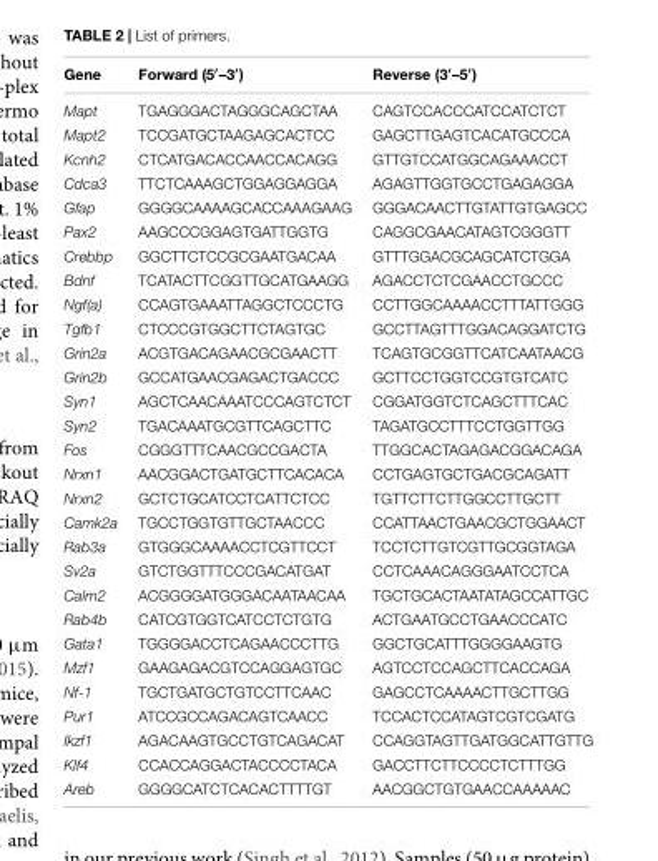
<table><thead><tr><td>Gene</td><td>Forward (5′–3′)</td><td>Reverse (3′–5′)</td></tr></thead><tbody><tr><td>Mapt</td><td>TGAGGGACTAGGGCAGCTAA</td><td>CAGTCCACCCATCCATCTCT</td></tr><tr><td>Mapt2</td><td>TCCGATGCTAAGAGCACTCC</td><td>GAGCTTGAGTCACATGCCCA</td></tr><tr><td>Kcnh2</td><td>CTCATGACACCAACCACAGG</td><td>GTTGTCCATGGCAGAAACCT</td></tr><tr><td>Cdca3</td><td>TTCTCAAAGCTGGAGGAGGA</td><td>AGAGTTGGTGCCTGAGAGGA</td></tr><tr><td>Gfap</td><td>GGGGCAAAAGCACCAAAGAAG</td><td>GGGACAACTTGTATTGTGAGCC</td></tr><tr><td>Pax2</td><td>AAGCCCGGAGTGATTGGTG</td><td>CAGGCGAACATAGTCGGGTT</td></tr><tr><td>Crebbp</td><td>GGCTTCTCCGCGAATGACAA</td><td>GTTTGGACGCAGCATCTGGA</td></tr><tr><td>Bdnf</td><td>TCATACTTCGGTTGCATGAAGG</td><td>AGACCTCTCGAACCTGCCC</td></tr><tr><td>Ngf(a)</td><td>CCAGTGAAATTAGGCTCCCTG</td><td>CCTTGGCAAAACCTTTATTGGG</td></tr><tr><td>Tgfb1</td><td>CTCCCGTGGCTTCTAGTGC</td><td>GCCTTAGTTTGGACAGGATCTG</td></tr><tr><td>Grin2a</td><td>ACGTGACAGAACGCGAACTT</td><td>TCAGTGCGGTTCATCAATAACG</td></tr><tr><td>Grin2b</td><td>GCCATGAACGAGACTGACCC</td><td>GCTTCCTGGTCCGTGTCATC</td></tr><tr><td>Syn1</td><td>AGCTCAACAAATCCCAGTCTCT</td><td>CGGATGGTCTCAGCTTTCAC</td></tr><tr><td>Syn2</td><td>TGACAAATGCGTTCAGCTTC</td><td>TAGATGCCTTTCCTGGTTGG</td></tr><tr><td>Fos</td><td>CGGGTTTCAACGCCGACTA</td><td>TTGGCACTAGAGACGGACAGA</td></tr><tr><td>Nrxn1</td><td>AACGGACTGATGCTTCACACA</td><td>CCTGAGTGCTGACGCAGATT</td></tr><tr><td>Nrxn2</td><td>GCTCTGCATCCTCATTCTCC</td><td>TGTTCTTCTTGGCCTTGCTT</td></tr><tr><td>Camk2a</td><td>TGCCTGGTGTTGCTAACCC</td><td>CCATTAACTGAACGCTGGAACT</td></tr><tr><td>Rab3a</td><td>GTGGGCAAAACCTCGTTCCT</td><td>TCCTCTTGTCGTTGCGGTAGA</td></tr><tr><td>Sv2a</td><td>GTCTGGTTTCCCGACATGAT</td><td>CCTCAAACAGGGAATCCTCA</td></tr><tr><td>Calm2</td><td>ACGGGGATGGGACAATAACAA</td><td>TGCTGCACTAATATAGCCATTGC</td></tr><tr><td>Rab4b</td><td>CATCGTGGTCATCCTCTGTG</td><td>ACTGAATGCCTGAACCCATC</td></tr><tr><td>Gata1</td><td>TGGGGACCTCAGAACCCTTG</td><td>GGCTGCATTTGGGGAAGTG</td></tr><tr><td>Mzf1</td><td>GAAGAGACGTCCAGGAGTGC</td><td>AGTCCTCCAGCTTCACCAGA</td></tr><tr><td>Nf-1</td><td>TGCTGATGCTGTCCTTCAAC</td><td>GAGCCTCAAAACTTGCTTGG</td></tr><tr><td>Pur1</td><td>ATCCGCCAGACAGTCAACC</td><td>TCCACTCCATAGTCGTCGATG</td></tr><tr><td>Ikzf1</td><td>AGACAAGTGCCTGTCAGACAT</td><td>CCAGGTAGTTGATGGCATTGTTG</td></tr><tr><td>Klf4</td><td>CCACCAGGACTACCCCTACA</td><td>GACCTTCTTCCCCTCTTTGG</td></tr><tr><td>Areb</td><td>GGGGCATCTCACACTTTTGT</td><td>AACGGCTGTGAACCAAAAAC</td></tr></tbody></table>